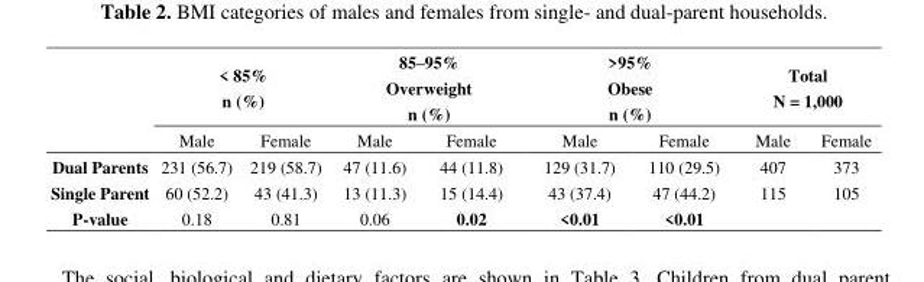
<table><thead><tr><td rowspan="2"></td><td colspan="2">&lt; 85% n (%)</td><td colspan="2">85–95% Overweight n (%)</td><td colspan="2">&gt;95% Obese n (%)</td><td colspan="2">Total N = 1,000</td></tr><tr><td>Male</td><td>Female</td><td>Male</td><td>Female</td><td>Male</td><td>Female</td><td>Male</td><td>Female</td></tr></thead><tbody><tr><td>Dual Parents</td><td>231 (56.7)</td><td>219 (58.7)</td><td>47 (11.6)</td><td>44 (11.8)</td><td>129 (31.7)</td><td>110 (29.5)</td><td>407</td><td>373</td></tr><tr><td>Single Parent</td><td>60 (52.2)</td><td>43 (41.3)</td><td>13 (11.3)</td><td>15 (14.4)</td><td>43 (37.4)</td><td>47 (44.2)</td><td>115</td><td>105</td></tr><tr><td>P-value</td><td>0.18</td><td>0.81</td><td>0.06</td><td>0.02</td><td>&lt;0.01</td><td>&lt;0.01</td><td></td><td></td></tr></tbody></table>